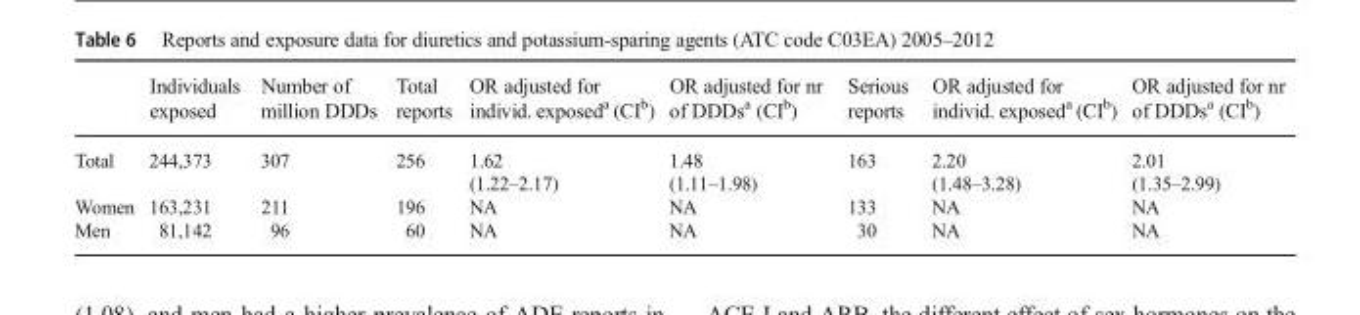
<table><thead><tr><td></td><td>Individuals exposed</td><td>Number of million DDDs</td><td>Total reports</td><td>OR adjusted for individ. exposed<sup>a</sup> (CI<sup>b</sup>)</td><td>OR adjusted for nr of DDDs<sup>a</sup> (CI<sup>b</sup>)</td><td>Serious reports</td><td>OR adjusted for individ. exposed<sup>a</sup> (CI<sup>b</sup>)</td><td>OR adjusted for nr of DDDs<sup>a</sup> (CI<sup>b</sup>)</td></tr></thead><tbody><tr><td>Total</td><td>244,373</td><td>307</td><td>256</td><td>1.62 (1.22–2.17)</td><td>1.48 (1.11–1.98)</td><td>163</td><td>2.20 (1.48–3.28)</td><td>2.01 (1.35–2.99)</td></tr><tr><td>Women</td><td>163,231</td><td>211</td><td>196</td><td>NA</td><td>NA</td><td>133</td><td>NA</td><td>NA</td></tr><tr><td>Men</td><td>81,142</td><td>96</td><td>60</td><td>NA</td><td>NA</td><td>30</td><td>NA</td><td>NA</td></tr></tbody></table>